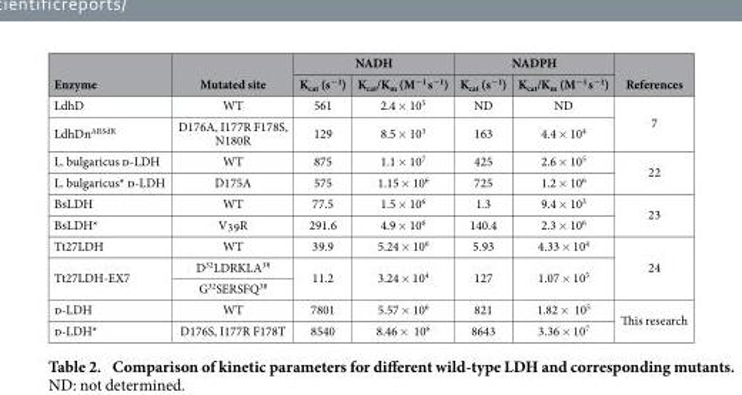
<table><thead><tr><td rowspan="2">Enzyme</td><td rowspan="2">Mutated site</td><td colspan="2">NADH</td><td colspan="2">NADPH</td><td rowspan="2">References</td></tr><tr><td>K<sub>cat</sub> (s<sup>−1</sup>)</td><td>K<sub>cat</sub>/K<sub>m</sub> (M<sup>−1</sup> s<sup>−1</sup>)</td><td>K<sub>cat</sub> (s<sup>−1</sup>)</td><td>K<sub>cat</sub>/K<sub>m</sub> (M<sup>−1</sup> s<sup>−1</sup>)</td></tr></thead><tbody><tr><td>LdhD</td><td>WT</td><td>561</td><td>2.4 × 10<sup>5</sup></td><td>ND</td><td>ND</td><td rowspan="2">7</td></tr><tr><td>LdhDn<sup>ARSdR</sup></td><td>D176A, I177R F178S, N180R</td><td>129</td><td>8.5 × 10<sup>3</sup></td><td>163</td><td>4.4 × 10<sup>4</sup></td></tr><tr><td>L. bulgaricus d-LDH</td><td>WT</td><td>875</td><td>1.1 × 10<sup>7</sup></td><td>425</td><td>2.6 × 10<sup>5</sup></td><td rowspan="2">22</td></tr><tr><td>L. bulgaricus* d-LDH</td><td>D175A</td><td>575</td><td>1.15 × 10<sup>6</sup></td><td>725</td><td>1.2 × 10<sup>6</sup></td></tr><tr><td>BsLDH</td><td>WT</td><td>77.5</td><td>1.5 × 10<sup>6</sup></td><td>1.3</td><td>9.4 × 10<sup>3</sup></td><td rowspan="2">23</td></tr><tr><td>BsLDH*</td><td>V39R</td><td>291.6</td><td>4.9 × 10<sup>6</sup></td><td>140.4</td><td>2.3 × 10<sup>6</sup></td></tr><tr><td>Tt27LDH</td><td>WT</td><td>39.9</td><td>5.24 × 10<sup>6</sup></td><td>5.93</td><td>4.33 × 10<sup>4</sup></td><td rowspan="3">24</td></tr><tr><td rowspan="2">Tt27LDH-EX7</td><td>D<sup>32</sup>LDRKLA<sup>38</sup></td><td rowspan="2">11.2</td><td rowspan="2">3.24 × 10<sup>4</sup></td><td rowspan="2">127</td><td rowspan="2">1.07 × 10<sup>5</sup></td></tr><tr><td>G<sup>32</sup>SERSFQ<sup>38</sup></td></tr><tr><td>d-LDH</td><td>WT</td><td>7801</td><td>5.57 × 10<sup>6</sup></td><td>821</td><td>1.82 × 10<sup>5</sup></td><td rowspan="2">This research</td></tr><tr><td>d-LDH*</td><td>D176S, I177R F178T</td><td>8540</td><td>8.46 × 10<sup>6</sup></td><td>8643</td><td>3.36 × 10<sup>7</sup></td></tr></tbody></table>